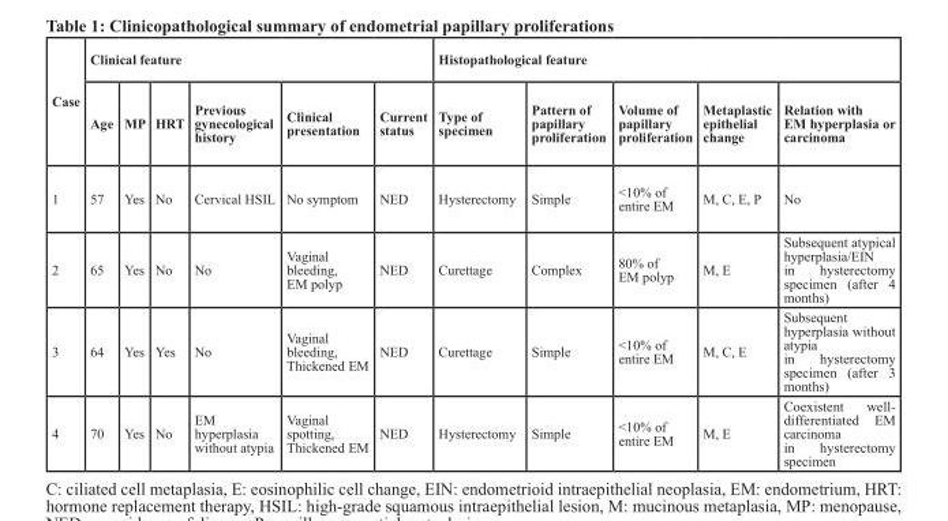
<table><thead><tr><td rowspan="2">Case</td><td colspan="6">Clinical feature</td><td colspan="5">Histopathological feature</td></tr><tr><td>Age</td><td>MP</td><td>HRT</td><td>Previous gynecological history</td><td>Clinical presentation</td><td>Current status</td><td>Type of specimen</td><td>Pattern of papillary proliferation</td><td>Volume of papillary proliferation</td><td>Metaplastic epithelial change</td><td>Relation with EM hyperplasia or carcinoma</td></tr></thead><tbody><tr><td>1</td><td>57</td><td>Yes</td><td>No</td><td>Cervical HSIL</td><td>No symptom</td><td>NED</td><td>Hysterectomy</td><td>Simple</td><td>&lt;10% of entire EM</td><td>M, C, E, P</td><td>No</td></tr><tr><td>2</td><td>65</td><td>Yes</td><td>No</td><td>No</td><td>Vaginal bleeding, EM polyp</td><td>NED</td><td>Curettage</td><td>Complex</td><td>80% of EM polyp</td><td>M, E</td><td>Subsequent atypical hyperplasia/EIN in hysterectomy specimen (after 4 months)</td></tr><tr><td>3</td><td>64</td><td>Yes</td><td>Yes</td><td>No</td><td>Vaginal bleeding, Thickened EM</td><td>NED</td><td>Curettage</td><td>Simple</td><td>&lt;10% of entire EM</td><td>M, C, E</td><td>Subsequent hyperplasia without atypia in hysterectomy specimen (after 3 months)</td></tr><tr><td>4</td><td>70</td><td>Yes</td><td>No</td><td>EM hyperplasia without atypia</td><td>Vaginal spotting, Thickened EM</td><td>NED</td><td>Hysterectomy</td><td>Simple</td><td>&lt;10% of entire EM</td><td>M, E</td><td>Coexistent well- differentiated EM carcinoma in hysterectomy specimen</td></tr></tbody></table>